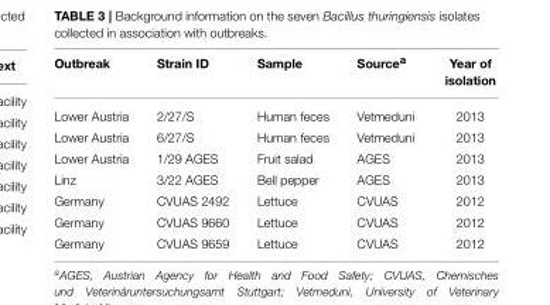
<table><thead><tr><td>Outbreak</td><td>Strain ID</td><td>Sample</td><td>Source<sup>a</sup></td><td>Year of isolation</td></tr></thead><tbody><tr><td>Lower Austria</td><td>2/27/S</td><td>Human feces</td><td>Vetmeduni</td><td>2013</td></tr><tr><td>Lower Austria</td><td>6/27/S</td><td>Human feces</td><td>Vetmeduni</td><td>2013</td></tr><tr><td>Lower Austria</td><td>1/29 AGES</td><td>Fruit salad</td><td>AGES</td><td>2013</td></tr><tr><td>Linz</td><td>3/22 AGES</td><td>Bell pepper</td><td>AGES</td><td>2013</td></tr><tr><td>Germany</td><td>CVUAS 2492</td><td>Lettuce</td><td>CVUAS</td><td>2012</td></tr><tr><td>Germany</td><td>CVUAS 9660</td><td>Lettuce</td><td>CVUAS</td><td>2012</td></tr><tr><td>Germany</td><td>CVUAS 9659</td><td>Lettuce</td><td>CVUAS</td><td>2012</td></tr></tbody></table>